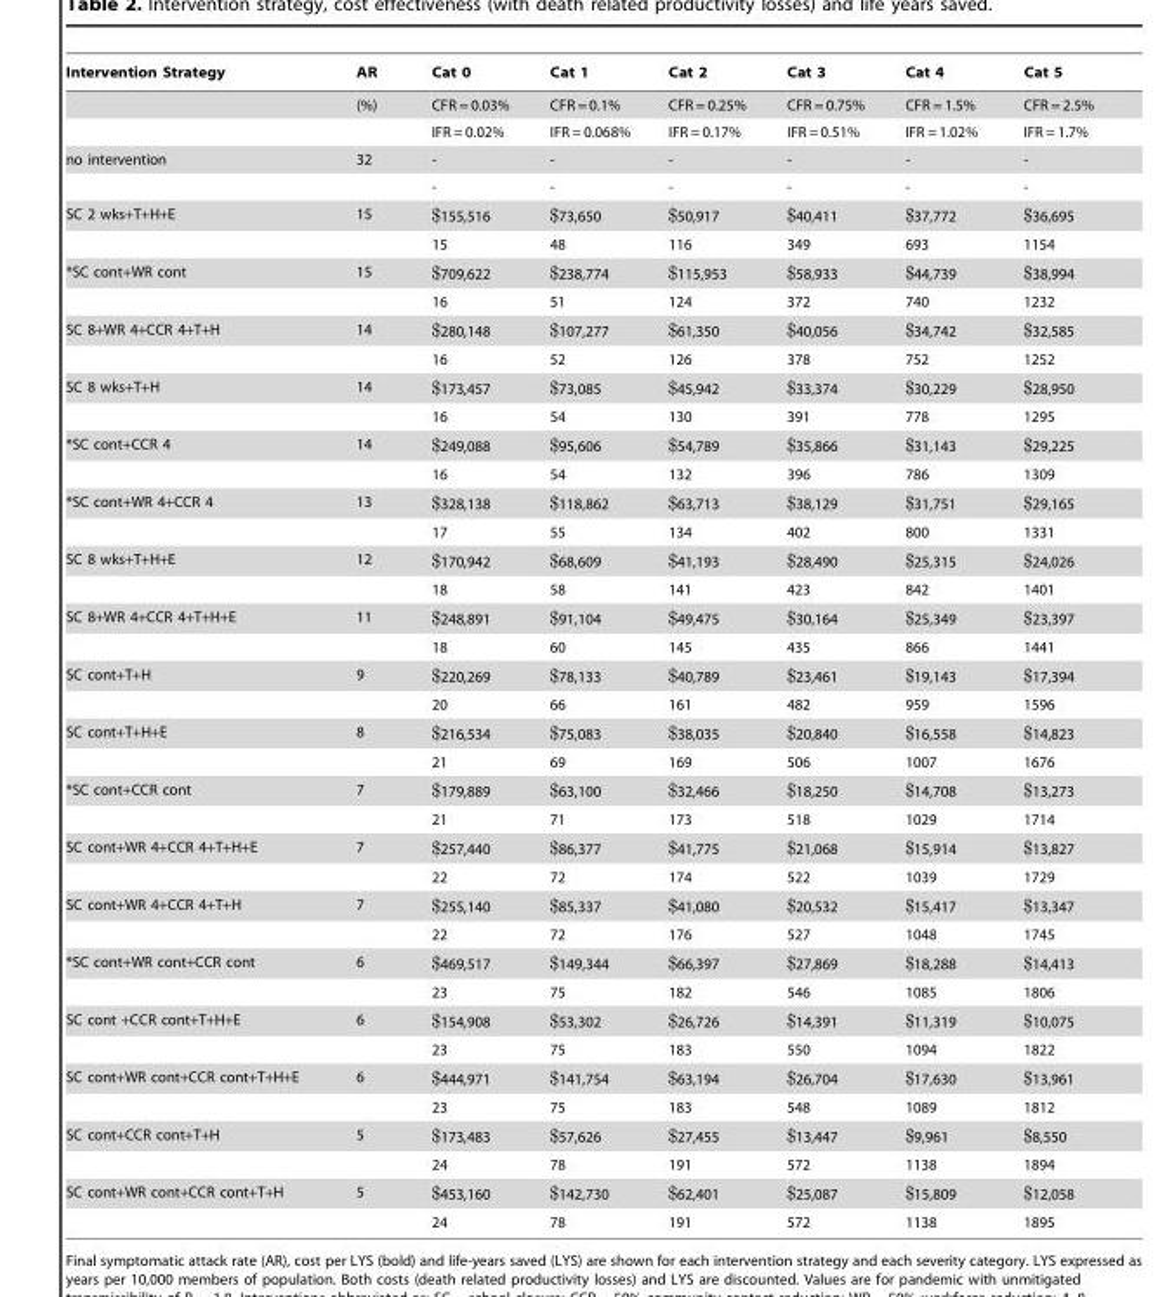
<table><thead><tr><td>Intervention Strategy</td><td>AR</td><td>Cat 0</td><td>Cat 1</td><td>Cat 2</td><td>Cat 3</td><td>Cat 4</td><td>Cat 5</td></tr></thead><tbody><tr><td></td><td>(%)</td><td>CFR = 0.03%</td><td>CFR = 0.1%</td><td>CFR = 0.25%</td><td>CFR = 0.75%</td><td>CFR = 1.5%</td><td>CFR = 2.5%</td></tr><tr><td></td><td></td><td>IFR = 0.02%</td><td>IFR = 0.068%</td><td>IFR = 0.17%</td><td>IFR = 0.51%</td><td>IFR = 1.02%</td><td>IFR = 1.7%</td></tr><tr><td rowspan="2">no intervention</td><td>32</td><td>-</td><td>-</td><td>-</td><td>-</td><td>-</td><td>-</td></tr><tr><td></td><td>-</td><td>-</td><td>-</td><td>-</td><td>-</td><td>-</td></tr><tr><td rowspan="2">SC 2 wks+T+H+E</td><td>15</td><td>$155,516</td><td>$73,650</td><td>$50,917</td><td>$40,411</td><td>$37,772</td><td>$36,695</td></tr><tr><td></td><td>15</td><td>48</td><td>116</td><td>349</td><td>693</td><td>1154</td></tr><tr><td rowspan="2">*SC cont+WR cont</td><td>15</td><td>$709,622</td><td>$238,774</td><td>$115,953</td><td>$58,933</td><td>$44,739</td><td>$38,994</td></tr><tr><td></td><td>16</td><td>51</td><td>124</td><td>372</td><td>740</td><td>1232</td></tr><tr><td rowspan="2">SC 8+WR 4+CCR 4+T+H</td><td>14</td><td>$280,148</td><td>$107,277</td><td>$61,350</td><td>$40,056</td><td>$34,742</td><td>$32,585</td></tr><tr><td></td><td>16</td><td>52</td><td>126</td><td>378</td><td>752</td><td>1252</td></tr><tr><td rowspan="2">SC 8 wks+T+H</td><td>14</td><td>$173,457</td><td>$73,085</td><td>$45,942</td><td>$33,374</td><td>$30,229</td><td>$28,950</td></tr><tr><td></td><td>16</td><td>54</td><td>130</td><td>391</td><td>778</td><td>1295</td></tr><tr><td rowspan="2">*SC cont+CCR 4</td><td>14</td><td>$249,088</td><td>$95,606</td><td>$54,789</td><td>$35,866</td><td>$31,143</td><td>$29,225</td></tr><tr><td></td><td>16</td><td>54</td><td>132</td><td>396</td><td>786</td><td>1309</td></tr><tr><td rowspan="2">*SC cont+WR 4+CCR 4</td><td>13</td><td>$328,138</td><td>$118,862</td><td>$63,713</td><td>$38,129</td><td>$31,751</td><td>$29,165</td></tr><tr><td></td><td>17</td><td>55</td><td>134</td><td>402</td><td>800</td><td>1331</td></tr><tr><td rowspan="2">SC 8 wks+T+H+E</td><td>12</td><td>$170,942</td><td>$68,609</td><td>$41,193</td><td>$28,490</td><td>$25,315</td><td>$24,026</td></tr><tr><td></td><td>18</td><td>58</td><td>141</td><td>423</td><td>842</td><td>1401</td></tr><tr><td rowspan="2">SC 8+WR 4+CCR 4+T+H+E</td><td>11</td><td>$248,891</td><td>$91,104</td><td>$49,475</td><td>$30,164</td><td>$25,349</td><td>$23,397</td></tr><tr><td></td><td>18</td><td>60</td><td>145</td><td>435</td><td>866</td><td>1441</td></tr><tr><td rowspan="2">SC cont+T+H</td><td>9</td><td>$220,269</td><td>$78,133</td><td>$40,789</td><td>$23,461</td><td>$19,143</td><td>$17,394</td></tr><tr><td></td><td>20</td><td>66</td><td>161</td><td>482</td><td>959</td><td>1596</td></tr><tr><td rowspan="2">SC cont+T+H+E</td><td>8</td><td>$216,534</td><td>$75,083</td><td>$38,035</td><td>$20,840</td><td>$16,558</td><td>$14,823</td></tr><tr><td></td><td>21</td><td>69</td><td>169</td><td>506</td><td>1007</td><td>1676</td></tr><tr><td rowspan="2">*SC cont+CCR cont</td><td>7</td><td>$179,889</td><td>$63,100</td><td>$32,466</td><td>$18,250</td><td>$14,708</td><td>$13,273</td></tr><tr><td></td><td>21</td><td>71</td><td>173</td><td>518</td><td>1029</td><td>1714</td></tr><tr><td rowspan="2">SC cont+WR 4+CCR 4+T+H+E</td><td>7</td><td>$257,440</td><td>$86,377</td><td>$41,775</td><td>$21,068</td><td>$15,914</td><td>$13,827</td></tr><tr><td></td><td>22</td><td>72</td><td>174</td><td>522</td><td>1039</td><td>1729</td></tr><tr><td rowspan="2">SC cont+WR 4+CCR 4+T+H</td><td>7</td><td>$255,140</td><td>$85,337</td><td>$41,080</td><td>$20,532</td><td>$15,417</td><td>$13,347</td></tr><tr><td></td><td>22</td><td>72</td><td>176</td><td>527</td><td>1048</td><td>1745</td></tr><tr><td rowspan="2">*SC cont+WR cont+CCR cont</td><td>6</td><td>$469,517</td><td>$149,344</td><td>$66,397</td><td>$27,869</td><td>$18,288</td><td>$14,413</td></tr><tr><td></td><td>23</td><td>75</td><td>182</td><td>546</td><td>1085</td><td>1806</td></tr><tr><td rowspan="2">SC cont +CCR cont+T+H+E</td><td>6</td><td>$154,908</td><td>$53,302</td><td>$26,726</td><td>$14,391</td><td>$11,319</td><td>$10,075</td></tr><tr><td></td><td>23</td><td>75</td><td>183</td><td>550</td><td>1094</td><td>1822</td></tr><tr><td rowspan="2">SC cont+WR cont+CCR cont+T+H+E</td><td>6</td><td>$444,971</td><td>$141,754</td><td>$63,194</td><td>$26,704</td><td>$17,630</td><td>$13,961</td></tr><tr><td></td><td>23</td><td>75</td><td>183</td><td>548</td><td>1089</td><td>1812</td></tr><tr><td rowspan="2">SC cont+CCR cont+T+H</td><td>5</td><td>$173,483</td><td>$57,626</td><td>$27,455</td><td>$13,447</td><td>$9,961</td><td>$8,550</td></tr><tr><td></td><td>24</td><td>78</td><td>191</td><td>572</td><td>1138</td><td>1894</td></tr><tr><td rowspan="2">SC cont+WR cont+CCR cont+T+H</td><td>5</td><td>$453,160</td><td>$142,730</td><td>$62,401</td><td>$25,087</td><td>$15,809</td><td>$12,058</td></tr><tr><td></td><td>24</td><td>78</td><td>191</td><td>572</td><td>1138</td><td>1895</td></tr></tbody></table>